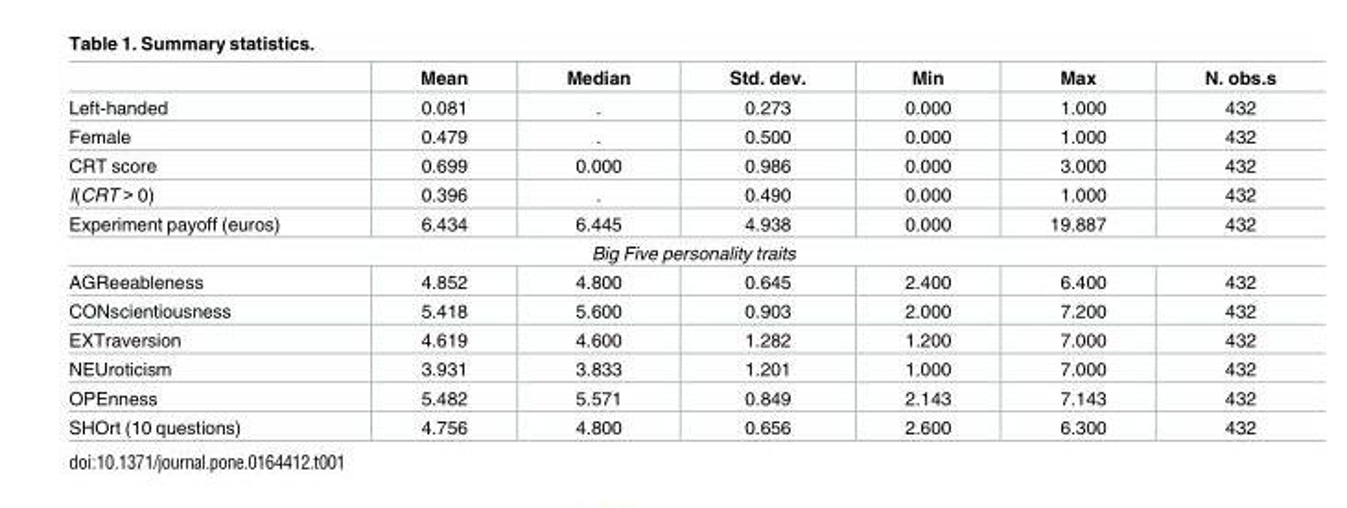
<table><thead><tr><td></td><td>Mean</td><td>Median</td><td>Std. dev.</td><td>Min</td><td>Max</td><td>N. obs.s</td></tr></thead><tbody><tr><td>Left-handed</td><td>0.081</td><td>.</td><td>0.273</td><td>0.000</td><td>1.000</td><td>432</td></tr><tr><td>Female</td><td>0.479</td><td>.</td><td>0.500</td><td>0.000</td><td>1.000</td><td>432</td></tr><tr><td>CRT score</td><td>0.699</td><td>0.000</td><td>0.986</td><td>0.000</td><td>3.000</td><td>432</td></tr><tr><td>I(CRT &gt; 0)</td><td>0.396</td><td>.</td><td>0.490</td><td>0.000</td><td>1.000</td><td>432</td></tr><tr><td>Experiment payoff (euros)</td><td>6.434</td><td>6.445</td><td>4.938</td><td>0.000</td><td>19.887</td><td>432</td></tr><tr><td colspan="7">Big Five personality traits</td></tr><tr><td>AGReeableness</td><td>4.852</td><td>4.800</td><td>0.645</td><td>2.400</td><td>6.400</td><td>432</td></tr><tr><td>CONscientiousness</td><td>5.418</td><td>5.600</td><td>0.903</td><td>2.000</td><td>7.200</td><td>432</td></tr><tr><td>EXTraversion</td><td>4.619</td><td>4.600</td><td>1.282</td><td>1.200</td><td>7.000</td><td>432</td></tr><tr><td>NEUroticism</td><td>3.931</td><td>3.833</td><td>1.201</td><td>1.000</td><td>7.000</td><td>432</td></tr><tr><td>OPEnness</td><td>5.482</td><td>5.571</td><td>0.849</td><td>2.143</td><td>7.143</td><td>432</td></tr><tr><td>SHOrt (10 questions)</td><td>4.756</td><td>4.800</td><td>0.656</td><td>2.600</td><td>6.300</td><td>432</td></tr></tbody></table>